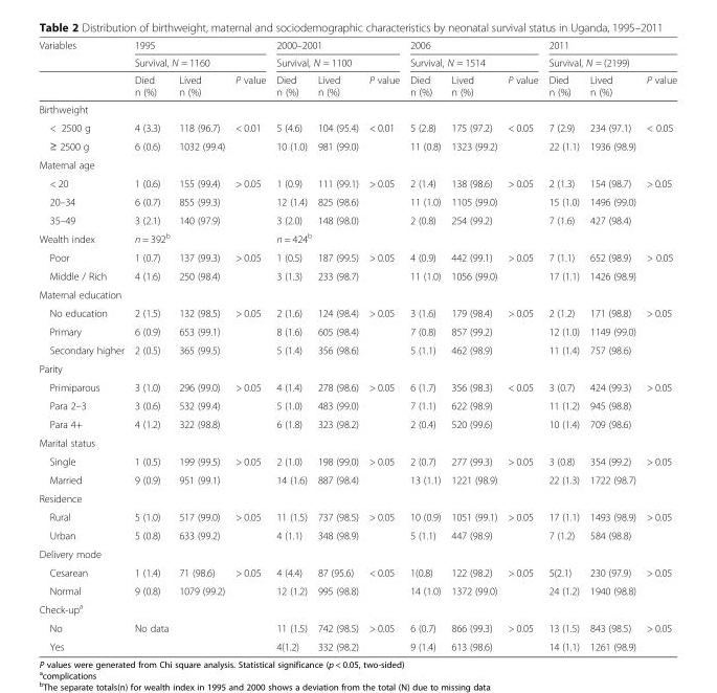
<table><thead><tr><td rowspan="3">Variables</td><td rowspan="2" colspan="3">1995 Survival, N = 1160</td><td rowspan="2" colspan="3">2000–2001 Survival, N = 1100</td><td rowspan="2" colspan="3">2006 Survival, N = 1514</td><td rowspan="2" colspan="3">2011 Survival, N = (2199)</td></tr><tr></tr><tr><td>Died n (%)</td><td>Lived n (%)</td><td>P value</td><td>Died n (%)</td><td>Lived n (%)</td><td>P value</td><td>Died n (%)</td><td>Lived n (%)</td><td>P value</td><td>Died n (%)</td><td>Lived n (%)</td><td>P value</td></tr></thead><tbody><tr><td colspan="13">Birthweight</td></tr><tr><td>&lt; 2500 g</td><td>4 (3.3)</td><td>118 (96.7)</td><td rowspan="2">&lt; 0.01</td><td>5 (4.6)</td><td>104 (95.4)</td><td rowspan="2">&lt; 0.01</td><td>5 (2.8)</td><td>175 (97.2)</td><td rowspan="2">&lt; 0.05</td><td>7 (2.9)</td><td>234 (97.1)</td><td rowspan="2">&lt; 0.05</td></tr><tr><td>≥ 2500 g</td><td>6 (0.6)</td><td>1032 (99.4)</td><td>10 (1.0)</td><td>981 (99.0)</td><td>11 (0.8)</td><td>1323 (99.2)</td><td>22 (1.1)</td><td>1936 (98.9)</td></tr><tr><td colspan="13">Maternal age</td></tr><tr><td>&lt; 20</td><td>1 (0.6)</td><td>155 (99.4)</td><td rowspan="3">&gt; 0.05</td><td>1 (0.9)</td><td>111 (99.1)</td><td rowspan="3">&gt; 0.05</td><td>2 (1.4)</td><td>138 (98.6)</td><td rowspan="3">&gt; 0.05</td><td>2 (1.3)</td><td>154 (98.7)</td><td rowspan="3">&gt; 0.05</td></tr><tr><td>20–34</td><td>6 (0.7)</td><td>855 (99.3)</td><td>12 (1.4)</td><td>825 (98.6)</td><td>11 (1.0)</td><td>1105 (99.0)</td><td>15 (1.0)</td><td>1496 (99.0)</td></tr><tr><td>35–49</td><td>3 (2.1)</td><td>140 (97.9)</td><td>3 (2.0)</td><td>148 (98.0)</td><td>2 (0.8)</td><td>254 (99.2)</td><td>7 (1.6)</td><td>427 (98.4)</td></tr><tr><td>Wealth index</td><td colspan="3">n = 392<sup>b</sup></td><td colspan="3">n = 424<sup>b</sup></td><td colspan="3"></td><td colspan="3"></td></tr><tr><td>Poor</td><td>1 (0.7)</td><td>137 (99.3)</td><td rowspan="2">&gt; 0.05</td><td>1 (0.5)</td><td>187 (99.5)</td><td rowspan="2">&gt; 0.05</td><td>4 (0.9)</td><td>442 (99.1)</td><td rowspan="2">&gt; 0.05</td><td>7 (1.1)</td><td>652 (98.9)</td><td rowspan="2">&gt; 0.05</td></tr><tr><td>Middle / Rich</td><td>4 (1.6)</td><td>250 (98.4)</td><td>3 (1.3)</td><td>233 (98.7)</td><td>11 (1.0)</td><td>1056 (99.0)</td><td>17 (1.1)</td><td>1426 (98.9)</td></tr><tr><td colspan="13">Maternal education</td></tr><tr><td>No education</td><td>2 (1.5)</td><td>132 (98.5)</td><td rowspan="3">&gt; 0.05</td><td>2 (1.6)</td><td>124 (98.4)</td><td rowspan="3">&gt; 0.05</td><td>3 (1.6)</td><td>179 (98.4)</td><td rowspan="3">&gt; 0.05</td><td>2 (1.2)</td><td>171 (98.8)</td><td rowspan="3">&gt; 0.05</td></tr><tr><td>Primary</td><td>6 (0.9)</td><td>653 (99.1)</td><td>8 (1.6)</td><td>605 (98.4)</td><td>7 (0.8)</td><td>857 (99.2)</td><td>12 (1.0)</td><td>1149 (99.0)</td></tr><tr><td>Secondary higher</td><td>2 (0.5)</td><td>365 (99.5)</td><td>5 (1.4)</td><td>356 (98.6)</td><td>5 (1.1)</td><td>462 (98.9)</td><td>11 (1.4)</td><td>757 (98.6)</td></tr><tr><td colspan="13">Parity</td></tr><tr><td>Primiparous</td><td>3 (1.0)</td><td>296 (99.0)</td><td rowspan="3">&gt; 0.05</td><td>4 (1.4)</td><td>278 (98.6)</td><td rowspan="3">&gt; 0.05</td><td>6 (1.7)</td><td>356 (98.3)</td><td rowspan="3">&lt; 0.05</td><td>3 (0.7)</td><td>424 (99.3)</td><td rowspan="3">&gt; 0.05</td></tr><tr><td>Para 2–3</td><td>3 (0.6)</td><td>532 (99.4)</td><td>5 (1.0)</td><td>483 (99.0)</td><td>7 (1.1)</td><td>622 (98.9)</td><td>11 (1.2)</td><td>945 (98.8)</td></tr><tr><td>Para 4+</td><td>4 (1.2)</td><td>322 (98.8)</td><td>6 (1.8)</td><td>323 (98.2)</td><td>2 (0.4)</td><td>520 (99.6)</td><td>10 (1.4)</td><td>709 (98.6)</td></tr><tr><td colspan="13">Marital status</td></tr><tr><td>Single</td><td>1 (0.5)</td><td>199 (99.5)</td><td rowspan="2">&gt; 0.05</td><td>2 (1.0)</td><td>198 (99.0)</td><td rowspan="2">&gt; 0.05</td><td>2 (0.7)</td><td>277 (99.3)</td><td rowspan="2">&gt; 0.05</td><td>3 (0.8)</td><td>354 (99.2)</td><td rowspan="2">&gt; 0.05</td></tr><tr><td>Married</td><td>9 (0.9)</td><td>951 (99.1)</td><td>14 (1.6)</td><td>887 (98.4)</td><td>13 (1.1)</td><td>1221 (98.9)</td><td>22 (1.3)</td><td>1722 (98.7)</td></tr><tr><td colspan="13">Residence</td></tr><tr><td>Rural</td><td>5 (1.0)</td><td>517 (99.0)</td><td rowspan="2">&gt; 0.05</td><td>11 (1.5)</td><td>737 (98.5)</td><td rowspan="2">&gt; 0.05</td><td>10 (0.9)</td><td>1051 (99.1)</td><td rowspan="2">&gt; 0.05</td><td>17 (1.1)</td><td>1493 (98.9)</td><td rowspan="2">&gt; 0.05</td></tr><tr><td>Urban</td><td>5 (0.8)</td><td>633 (99.2)</td><td>4 (1.1)</td><td>348 (98.9)</td><td>5 (1.1)</td><td>447 (98.9)</td><td>7 (1.2)</td><td>584 (98.8)</td></tr><tr><td colspan="13">Delivery mode</td></tr><tr><td>Cesarean</td><td>1 (1.4)</td><td>71 (98.6)</td><td>&gt; 0.05</td><td>4 (4.4)</td><td>87 (95.6)</td><td>&lt; 0.05</td><td>1(0.8)</td><td>122 (98.2)</td><td>&gt; 0.05</td><td>5(2.1)</td><td>230 (97.9)</td><td>&gt; 0.05</td></tr><tr><td>Normal</td><td>9 (0.8)</td><td>1079 (99.2)</td><td></td><td>12 (1.2)</td><td>995 (98.8)</td><td></td><td>14 (1.0)</td><td>1372 (99.0)</td><td></td><td>24 (1.2)</td><td>1940 (98.8)</td><td></td></tr><tr><td colspan="13">Check-up<sup>a</sup></td></tr><tr><td>No</td><td>No data</td><td></td><td></td><td>11 (1.5)</td><td>742 (98.5)</td><td>&gt; 0.05</td><td>6 (0.7)</td><td>866 (99.3)</td><td>&gt; 0.05</td><td>13 (1.5)</td><td>843 (98.5)</td><td>&gt; 0.05</td></tr><tr><td>Yes</td><td></td><td></td><td></td><td>4(1.2)</td><td>332 (98.2)</td><td></td><td>9 (1.4)</td><td>613 (98.6)</td><td></td><td>14 (1.1)</td><td>1261 (98.9)</td><td></td></tr></tbody></table>